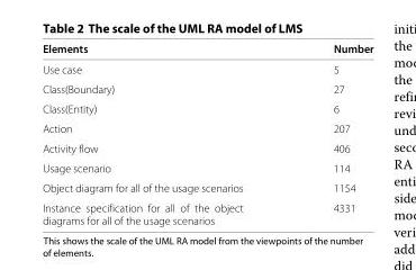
<table><thead><tr><td>Elements</td><td>Number</td></tr></thead><tbody><tr><td>Use case</td><td>5</td></tr><tr><td>Class(Boundary)</td><td>27</td></tr><tr><td>Class(Entity)</td><td>6</td></tr><tr><td>Action</td><td>207</td></tr><tr><td>Activity flow</td><td>406</td></tr><tr><td>Usage scenario</td><td>114</td></tr><tr><td>Object diagram for all of the usage scenarios</td><td>1154</td></tr><tr><td>Instance specification for all of the object diagrams for all of the usage scenarios</td><td>4331</td></tr></tbody></table>